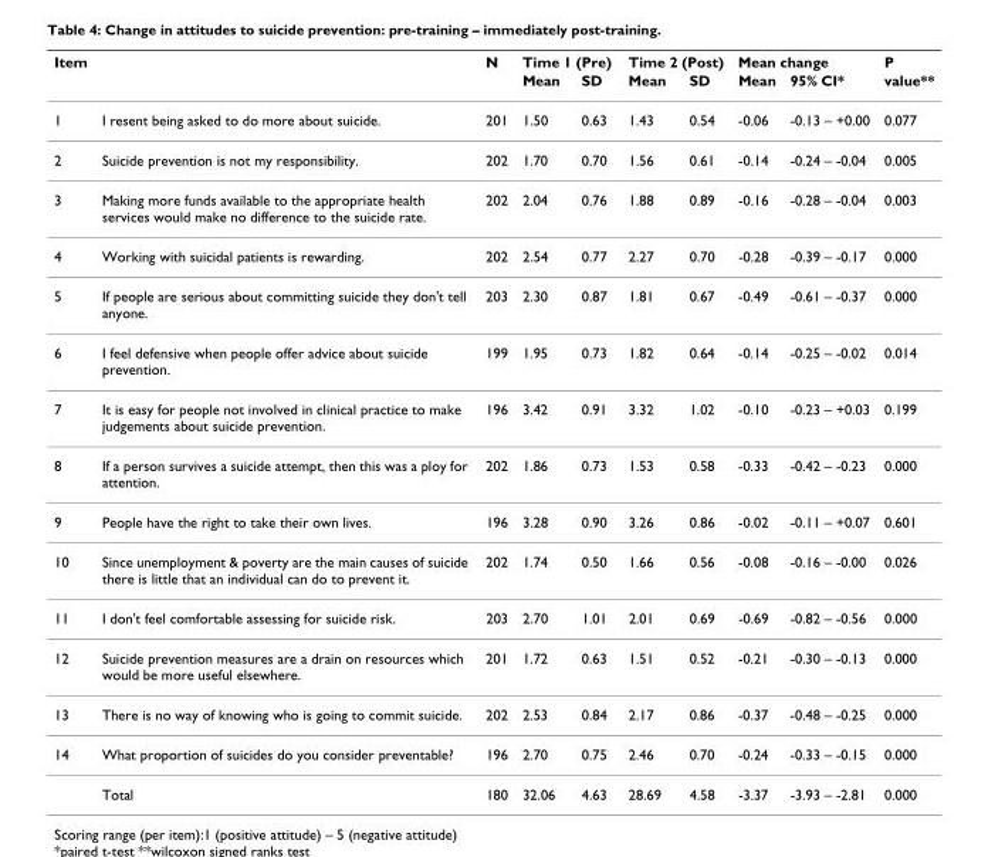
<table><thead><tr><td rowspan="2">Item</td><td rowspan="2"></td><td rowspan="2">N</td><td colspan="2">Time 1 (Pre)</td><td colspan="2">Time 2 (Post)</td><td colspan="2">Mean change</td><td rowspan="2">P value**</td></tr><tr><td>Mean</td><td>SD</td><td>Mean</td><td>SD</td><td>Mean</td><td>95% CI*</td></tr></thead><tbody><tr><td>1</td><td>I resent being asked to do more about suicide.</td><td>201</td><td>1.50</td><td>0.63</td><td>1.43</td><td>0.54</td><td>-0.06</td><td>-0.13 – +0.00</td><td>0.077</td></tr><tr><td>2</td><td>Suicide prevention is not my responsibility.</td><td>202</td><td>1.70</td><td>0.70</td><td>1.56</td><td>0.61</td><td>-0.14</td><td>-0.24 – -0.04</td><td>0.005</td></tr><tr><td>3</td><td>Making more funds available to the appropriate health services would make no difference to the suicide rate.</td><td>202</td><td>2.04</td><td>0.76</td><td>1.88</td><td>0.89</td><td>-0.16</td><td>-0.28 – -0.04</td><td>0.003</td></tr><tr><td>4</td><td>Working with suicidal patients is rewarding.</td><td>202</td><td>2.54</td><td>0.77</td><td>2.27</td><td>0.70</td><td>-0.28</td><td>-0.39 – -0.17</td><td>0.000</td></tr><tr><td>5</td><td>If people are serious about committing suicide they don&#x27;t tell anyone.</td><td>203</td><td>2.30</td><td>0.87</td><td>1.81</td><td>0.67</td><td>-0.49</td><td>-0.61 – -0.37</td><td>0.000</td></tr><tr><td>6</td><td>I feel defensive when people offer advice about suicide prevention.</td><td>199</td><td>1.95</td><td>0.73</td><td>1.82</td><td>0.64</td><td>-0.14</td><td>-0.25 – -0.02</td><td>0.014</td></tr><tr><td>7</td><td>It is easy for people not involved in clinical practice to make judgements about suicide prevention.</td><td>196</td><td>3.42</td><td>0.91</td><td>3.32</td><td>1.02</td><td>-0.10</td><td>-0.23 – +0.03</td><td>0.199</td></tr><tr><td>8</td><td>If a person survives a suicide attempt, then this was a ploy for attention.</td><td>202</td><td>1.86</td><td>0.73</td><td>1.53</td><td>0.58</td><td>-0.33</td><td>-0.42 – -0.23</td><td>0.000</td></tr><tr><td>9</td><td>People have the right to take their own lives.</td><td>196</td><td>3.28</td><td>0.90</td><td>3.26</td><td>0.86</td><td>-0.02</td><td>-0.11 – +0.07</td><td>0.601</td></tr><tr><td>10</td><td>Since unemployment &amp; poverty are the main causes of suicide there is little that an individual can do to prevent it.</td><td>202</td><td>1.74</td><td>0.50</td><td>1.66</td><td>0.56</td><td>-0.08</td><td>-0.16 – -0.00</td><td>0.026</td></tr><tr><td>11</td><td>I don&#x27;t feel comfortable assessing for suicide risk.</td><td>203</td><td>2.70</td><td>1.01</td><td>2.01</td><td>0.69</td><td>-0.69</td><td>-0.82 – -0.56</td><td>0.000</td></tr><tr><td>12</td><td>Suicide prevention measures are a drain on resources which would be more useful elsewhere.</td><td>201</td><td>1.72</td><td>0.63</td><td>1.51</td><td>0.52</td><td>-0.21</td><td>-0.30 – -0.13</td><td>0.000</td></tr><tr><td>13</td><td>There is no way of knowing who is going to commit suicide.</td><td>202</td><td>2.53</td><td>0.84</td><td>2.17</td><td>0.86</td><td>-0.37</td><td>-0.48 – -0.25</td><td>0.000</td></tr><tr><td rowspan="2">14</td><td>What proportion of suicides do you consider preventable?</td><td>196</td><td>2.70</td><td>0.75</td><td>2.46</td><td>0.70</td><td>-0.24</td><td>-0.33 – -0.15</td><td>0.000</td></tr><tr><td>Total</td><td>180</td><td>32.06</td><td>4.63</td><td>28.69</td><td>4.58</td><td>-3.37</td><td>-3.93 – -2.81</td><td>0.000</td></tr></tbody></table>